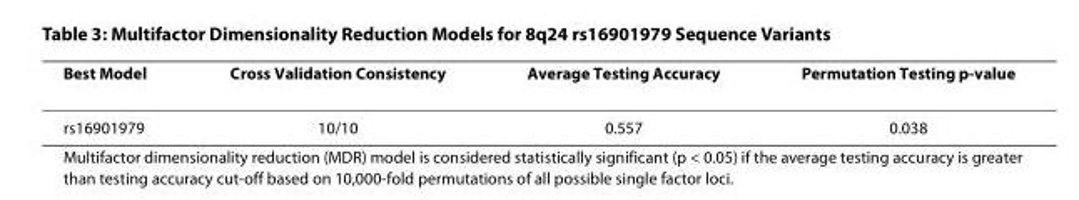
<table><thead><tr><td>Best Model</td><td>Cross Validation Consistency</td><td>Average Testing Accuracy</td><td>Permutation Testing p-value</td></tr></thead><tbody><tr><td>rs16901979</td><td>10/10</td><td>0.557</td><td>0.038</td></tr></tbody></table>